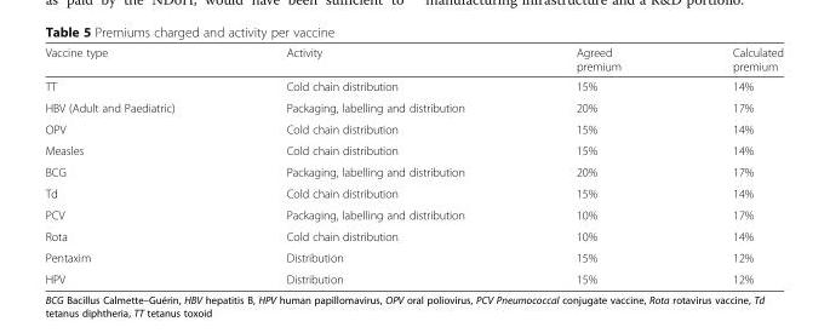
<table><thead><tr><td>Vaccine type</td><td>Activity</td><td>Agreed premium</td><td>Calculated premium</td></tr></thead><tbody><tr><td>TT</td><td>Cold chain distribution</td><td>15%</td><td>14%</td></tr><tr><td>HBV (Adult and Paediatric)</td><td>Packaging, labelling and distribution</td><td>20%</td><td>17%</td></tr><tr><td>OPV</td><td>Cold chain distribution</td><td>15%</td><td>14%</td></tr><tr><td>Measles</td><td>Cold chain distribution</td><td>15%</td><td>14%</td></tr><tr><td>BCG</td><td>Packaging, labelling and distribution</td><td>20%</td><td>17%</td></tr><tr><td>Td</td><td>Cold chain distribution</td><td>15%</td><td>14%</td></tr><tr><td>PCV</td><td>Packaging, labelling and distribution</td><td>10%</td><td>17%</td></tr><tr><td>Rota</td><td>Cold chain distribution</td><td>10%</td><td>14%</td></tr><tr><td>Pentaxim</td><td>Distribution</td><td>15%</td><td>12%</td></tr><tr><td>HPV</td><td>Distribution</td><td>15%</td><td>12%</td></tr></tbody></table>